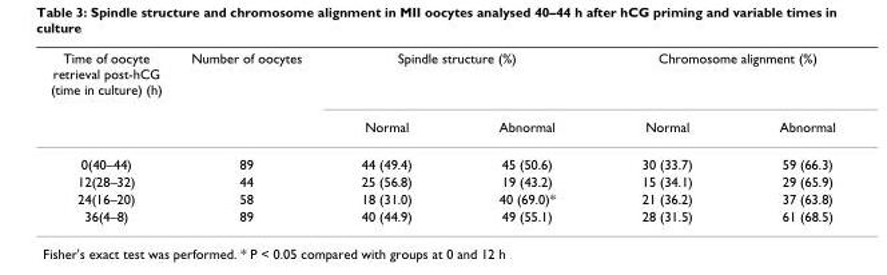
<table><thead><tr><td rowspan="2">Time of oocyte retrieval post-hCG (time in culture) (h)</td><td rowspan="2">Number of oocytes</td><td colspan="2">Spindle structure (%)</td><td colspan="2">Chromosome alignment (%)</td></tr><tr><td>Normal</td><td>Abnormal</td><td>Normal</td><td>Abnormal</td></tr></thead><tbody><tr><td>0(40–44)</td><td>89</td><td>44 (49.4)</td><td>45 (50.6)</td><td>30 (33.7)</td><td>59 (66.3)</td></tr><tr><td>12(28–32)</td><td>44</td><td>25 (56.8)</td><td>19 (43.2)</td><td>15 (34.1)</td><td>29 (65.9)</td></tr><tr><td>24(16–20)</td><td>58</td><td>18 (31.0)</td><td>40 (69.0)*</td><td>21 (36.2)</td><td>37 (63.8)</td></tr><tr><td>36(4–8)</td><td>89</td><td>40 (44.9)</td><td>49 (55.1)</td><td>28 (31.5)</td><td>61 (68.5)</td></tr></tbody></table>